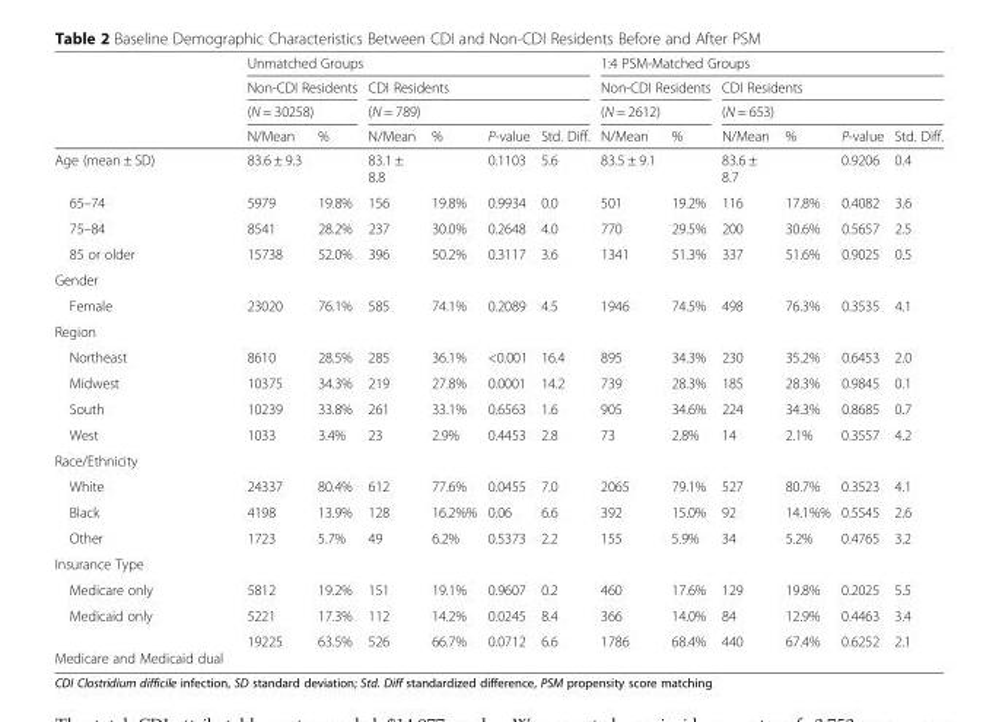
<table><thead><tr><td rowspan="4"></td><td colspan="6">Unmatched Groups</td><td colspan="6">1:4 PSM-Matched Groups</td></tr><tr><td rowspan="2" colspan="2">Non-CDI Residents (N = 30258)</td><td rowspan="2" colspan="4">CDI Residents (N = 789)</td><td rowspan="2" colspan="2">Non-CDI Residents (N = 2612)</td><td rowspan="2" colspan="4">CDI Residents (N = 653)</td></tr><tr></tr><tr><td>N/Mean</td><td>%</td><td>N/Mean</td><td>%</td><td>P-value</td><td>Std. Diff.</td><td>N/Mean</td><td>%</td><td>N/Mean</td><td>%</td><td>P-value</td><td>Std. Diff.</td></tr></thead><tbody><tr><td>Age (mean ± SD)</td><td>83.6 ± 9.3</td><td></td><td>83.1 ± 8.8</td><td></td><td>0.1103</td><td>5.6</td><td>83.5 ± 9.1</td><td></td><td>83.6 ± 8.7</td><td></td><td>0.9206</td><td>0.4</td></tr><tr><td>65–74</td><td>5979</td><td>19.8%</td><td>156</td><td>19.8%</td><td>0.9934</td><td>0.0</td><td>501</td><td>19.2%</td><td>116</td><td>17.8%</td><td>0.4082</td><td>3.6</td></tr><tr><td>75–84</td><td>8541</td><td>28.2%</td><td>237</td><td>30.0%</td><td>0.2648</td><td>4.0</td><td>770</td><td>29.5%</td><td>200</td><td>30.6%</td><td>0.5657</td><td>2.5</td></tr><tr><td>85 or older</td><td>15738</td><td>52.0%</td><td>396</td><td>50.2%</td><td>0.3117</td><td>3.6</td><td>1341</td><td>51.3%</td><td>337</td><td>51.6%</td><td>0.9025</td><td>0.5</td></tr><tr><td colspan="13">Gender</td></tr><tr><td>Female</td><td>23020</td><td>76.1%</td><td>585</td><td>74.1%</td><td>0.2089</td><td>4.5</td><td>1946</td><td>74.5%</td><td>498</td><td>76.3%</td><td>0.3535</td><td>4.1</td></tr><tr><td colspan="13">Region</td></tr><tr><td>Northeast</td><td>8610</td><td>28.5%</td><td>285</td><td>36.1%</td><td>&lt;0.001</td><td>16.4</td><td>895</td><td>34.3%</td><td>230</td><td>35.2%</td><td>0.6453</td><td>2.0</td></tr><tr><td>Midwest</td><td>10375</td><td>34.3%</td><td>219</td><td>27.8%</td><td>0.0001</td><td>14.2</td><td>739</td><td>28.3%</td><td>185</td><td>28.3%</td><td>0.9845</td><td>0.1</td></tr><tr><td>South</td><td>10239</td><td>33.8%</td><td>261</td><td>33.1%</td><td>0.6563</td><td>1.6</td><td>905</td><td>34.6%</td><td>224</td><td>34.3%</td><td>0.8685</td><td>0.7</td></tr><tr><td>West</td><td>1033</td><td>3.4%</td><td>23</td><td>2.9%</td><td>0.4453</td><td>2.8</td><td>73</td><td>2.8%</td><td>14</td><td>2.1%</td><td>0.3557</td><td>4.2</td></tr><tr><td colspan="13">Race/Ethnicity</td></tr><tr><td>White</td><td>24337</td><td>80.4%</td><td>612</td><td>77.6%</td><td>0.0455</td><td>7.0</td><td>2065</td><td>79.1%</td><td>527</td><td>80.7%</td><td>0.3523</td><td>4.1</td></tr><tr><td>Black</td><td>4198</td><td>13.9%</td><td>128</td><td>16.2%%</td><td>0.06</td><td>6.6</td><td>392</td><td>15.0%</td><td>92</td><td>14.1%%</td><td>0.5545</td><td>2.6</td></tr><tr><td>Other</td><td>1723</td><td>5.7%</td><td>49</td><td>6.2%</td><td>0.5373</td><td>2.2</td><td>155</td><td>5.9%</td><td>34</td><td>5.2%</td><td>0.4765</td><td>3.2</td></tr><tr><td colspan="13">Insurance Type</td></tr><tr><td>Medicare only</td><td>5812</td><td>19.2%</td><td>151</td><td>19.1%</td><td>0.9607</td><td>0.2</td><td>460</td><td>17.6%</td><td>129</td><td>19.8%</td><td>0.2025</td><td>5.5</td></tr><tr><td>Medicaid only</td><td>5221</td><td>17.3%</td><td>112</td><td>14.2%</td><td>0.0245</td><td>8.4</td><td>366</td><td>14.0%</td><td>84</td><td>12.9%</td><td>0.4463</td><td>3.4</td></tr><tr><td>Medicare and Medicaid dual</td><td>19225</td><td>63.5%</td><td>526</td><td>66.7%</td><td>0.0712</td><td>6.6</td><td>1786</td><td>68.4%</td><td>440</td><td>67.4%</td><td>0.6252</td><td>2.1</td></tr></tbody></table>